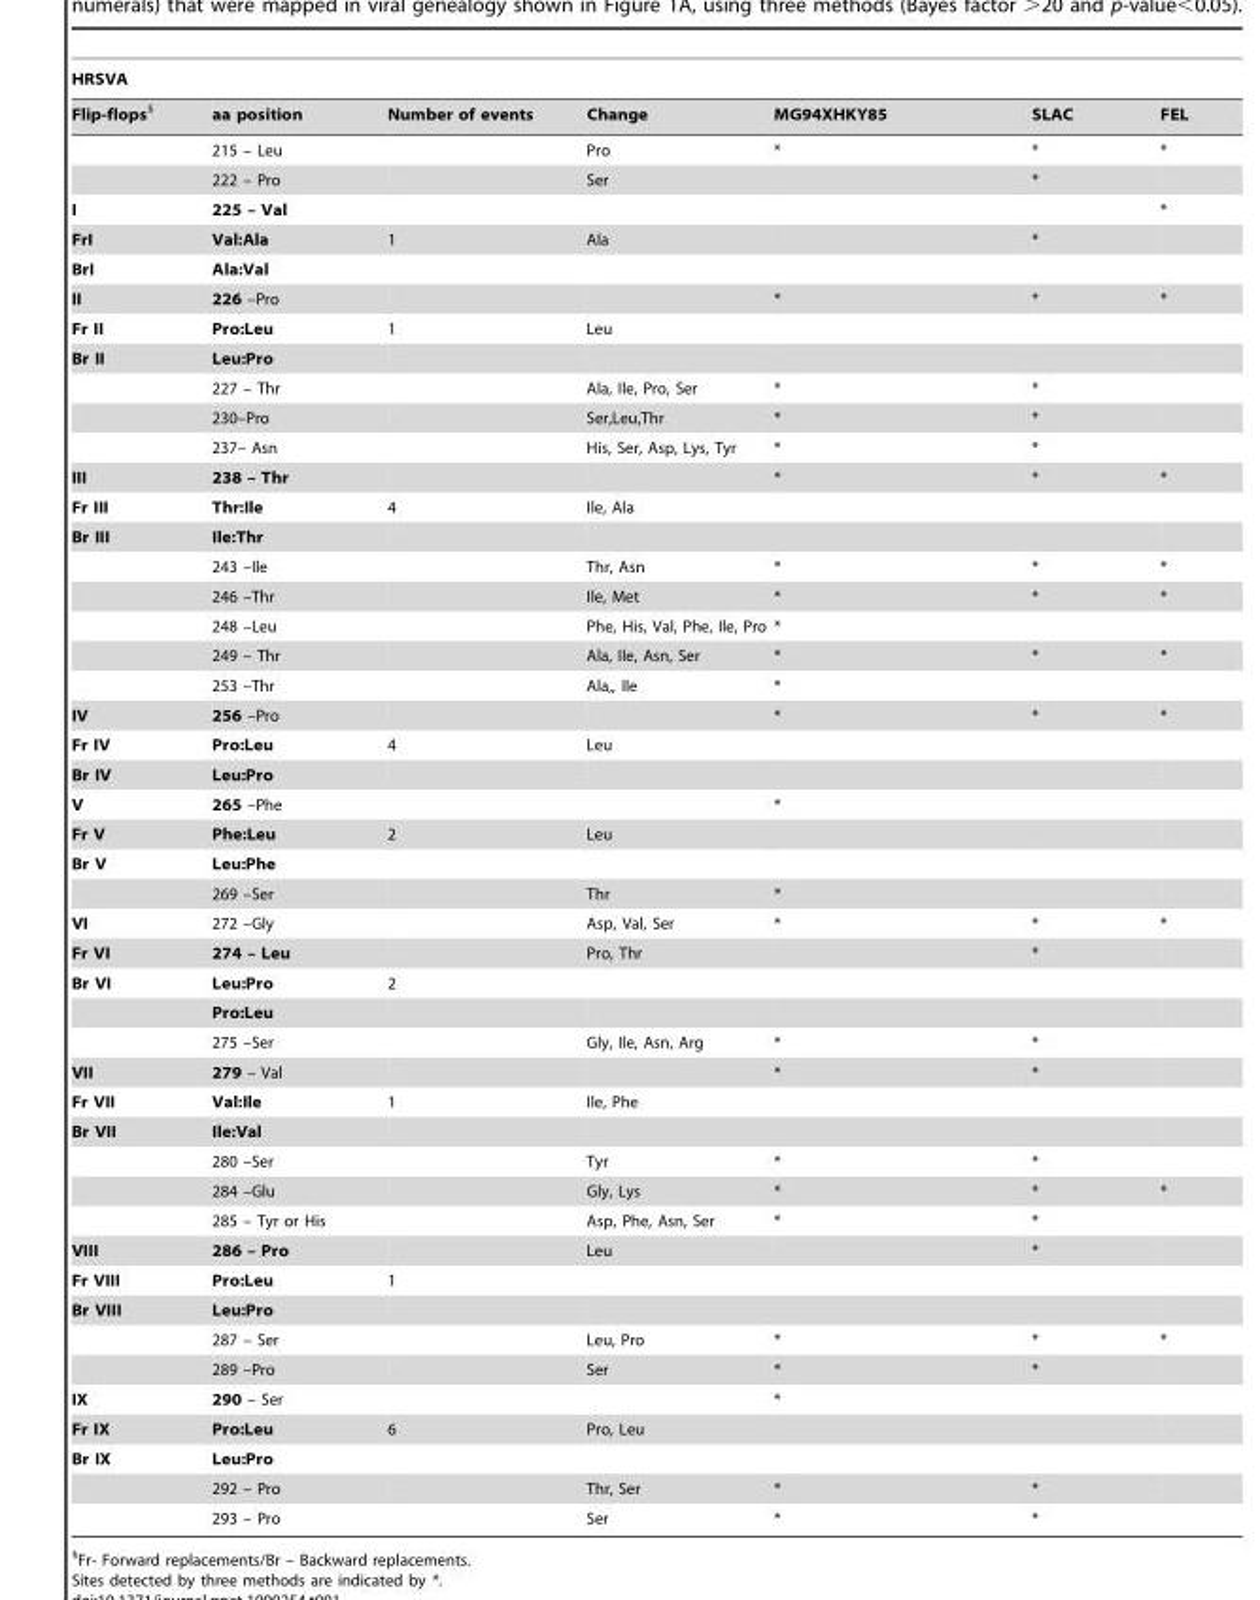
<table><thead><tr><td colspan="7">HRSVA</td></tr><tr><td>Flip-flops§</td><td>aa position</td><td>Number of events</td><td>Change</td><td>MG94XHKY85</td><td>SLAC</td><td>FEL</td></tr></thead><tbody><tr><td></td><td>215 – Leu</td><td></td><td>Pro</td><td>*</td><td>*</td><td>*</td></tr><tr><td></td><td>222 – Pro</td><td></td><td>Ser</td><td></td><td>*</td><td></td></tr><tr><td>I</td><td>225 – Val</td><td></td><td></td><td></td><td></td><td>*</td></tr><tr><td>FrI</td><td>Val:Ala</td><td>1</td><td>Ala</td><td></td><td>*</td><td></td></tr><tr><td>BrI</td><td>Ala:Val</td><td></td><td></td><td></td><td></td><td></td></tr><tr><td>II</td><td>226 –Pro</td><td></td><td></td><td>*</td><td>*</td><td>*</td></tr><tr><td>Fr II</td><td>Pro:Leu</td><td>1</td><td>Leu</td><td></td><td></td><td></td></tr><tr><td rowspan="4">Br II</td><td>Leu:Pro</td><td></td><td></td><td></td><td></td><td></td></tr><tr><td>227 – Thr</td><td></td><td>Ala, Ile, Pro, Ser</td><td>*</td><td>*</td><td></td></tr><tr><td>230–Pro</td><td></td><td>Ser,Leu,Thr</td><td>*</td><td>*</td><td></td></tr><tr><td>237– Asn</td><td></td><td>His, Ser, Asp, Lys, Tyr</td><td>*</td><td>*</td><td></td></tr><tr><td>III</td><td>238 – Thr</td><td></td><td></td><td>*</td><td>*</td><td>*</td></tr><tr><td>Fr III</td><td>Thr:Ile</td><td>4</td><td>Ile, Ala</td><td></td><td></td><td></td></tr><tr><td rowspan="6">Br III</td><td>Ile:Thr</td><td></td><td></td><td></td><td></td><td></td></tr><tr><td>243 –Ile</td><td></td><td>Thr, Asn</td><td>*</td><td>*</td><td>*</td></tr><tr><td>246 –Thr</td><td></td><td>Ile, Met</td><td>*</td><td>*</td><td>*</td></tr><tr><td>248 –Leu</td><td></td><td>Phe, His, Val, Phe, Ile, Pro</td><td>*</td><td></td><td></td></tr><tr><td>249 – Thr</td><td></td><td>Ala, Ile, Asn, Ser</td><td>*</td><td>*</td><td>*</td></tr><tr><td>253 –Thr</td><td></td><td>Ala,, Ile</td><td>*</td><td></td><td></td></tr><tr><td>IV</td><td>256 –Pro</td><td></td><td></td><td>*</td><td>*</td><td>*</td></tr><tr><td>Fr IV</td><td>Pro:Leu</td><td>4</td><td>Leu</td><td></td><td></td><td></td></tr><tr><td>Br IV</td><td>Leu:Pro</td><td></td><td></td><td></td><td></td><td></td></tr><tr><td>V</td><td>265 –Phe</td><td></td><td></td><td>*</td><td></td><td></td></tr><tr><td>Fr V</td><td>Phe:Leu</td><td>2</td><td>Leu</td><td></td><td></td><td></td></tr><tr><td rowspan="2">Br V</td><td>Leu:Phe</td><td></td><td></td><td></td><td></td><td></td></tr><tr><td>269 –Ser</td><td></td><td>Thr</td><td>*</td><td></td><td></td></tr><tr><td>VI</td><td>272 –Gly</td><td></td><td>Asp, Val, Ser</td><td>*</td><td>*</td><td>*</td></tr><tr><td>Fr VI</td><td>274 – Leu</td><td></td><td>Pro, Thr</td><td></td><td>*</td><td></td></tr><tr><td rowspan="3">Br VI</td><td>Leu:Pro</td><td>2</td><td></td><td></td><td></td><td></td></tr><tr><td>Pro:Leu</td><td></td><td></td><td></td><td></td><td></td></tr><tr><td>275 –Ser</td><td></td><td>Gly, Ile, Asn, Arg</td><td>*</td><td>*</td><td></td></tr><tr><td>VII</td><td>279 – Val</td><td></td><td></td><td>*</td><td>*</td><td></td></tr><tr><td>Fr VII</td><td>Val:Ile</td><td>1</td><td>Ile, Phe</td><td></td><td></td><td></td></tr><tr><td rowspan="4">Br VII</td><td>Ile:Val</td><td></td><td></td><td></td><td></td><td></td></tr><tr><td>280 –Ser</td><td></td><td>Tyr</td><td>*</td><td>*</td><td></td></tr><tr><td>284 –Glu</td><td></td><td>Gly, Lys</td><td>*</td><td>*</td><td>*</td></tr><tr><td>285 – Tyr or His</td><td></td><td>Asp, Phe, Asn, Ser</td><td>*</td><td>*</td><td></td></tr><tr><td>VIII</td><td>286 – Pro</td><td></td><td>Leu</td><td></td><td>*</td><td></td></tr><tr><td>Fr VIII</td><td>Pro:Leu</td><td>1</td><td></td><td></td><td></td><td></td></tr><tr><td rowspan="3">Br VIII</td><td>Leu:Pro</td><td></td><td></td><td></td><td></td><td></td></tr><tr><td>287 – Ser</td><td></td><td>Leu, Pro</td><td>*</td><td>*</td><td>*</td></tr><tr><td>289 –Pro</td><td></td><td>Ser</td><td>*</td><td>*</td><td></td></tr><tr><td>IX</td><td>290 – Ser</td><td></td><td></td><td>*</td><td></td><td></td></tr><tr><td>Fr IX</td><td>Pro:Leu</td><td>6</td><td>Pro, Leu</td><td></td><td></td><td></td></tr><tr><td rowspan="3">Br IX</td><td>Leu:Pro</td><td></td><td></td><td></td><td></td><td></td></tr><tr><td>292 – Pro</td><td></td><td>Thr, Ser</td><td>*</td><td>*</td><td></td></tr><tr><td>293 – Pro</td><td></td><td>Ser</td><td>*</td><td>*</td><td></td></tr></tbody></table>